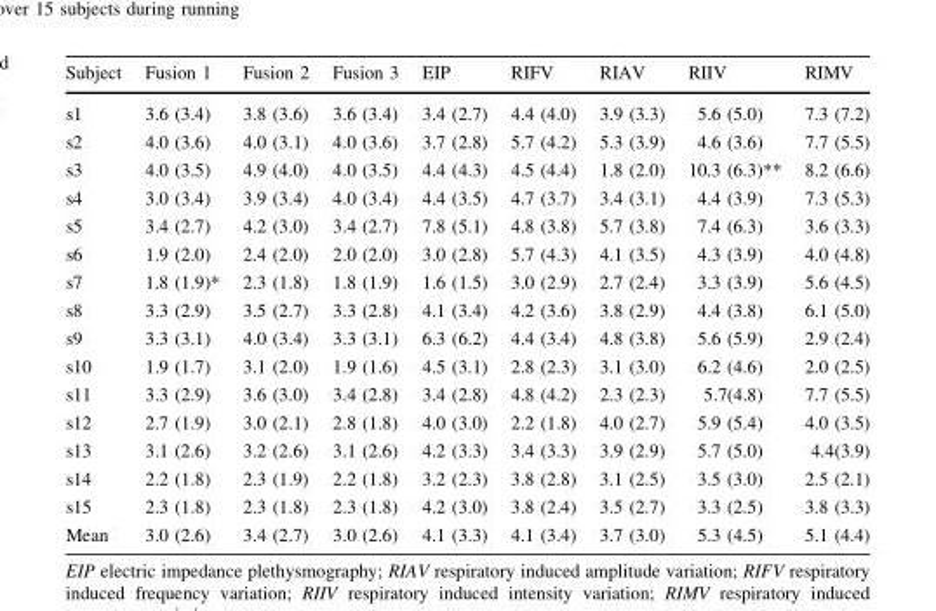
<table><thead><tr><td>Subject</td><td>Fusion 1</td><td>Fusion 2</td><td>Fusion 3</td><td>EIP</td><td>RIFV</td><td>RIAV</td><td>RIIV</td><td>RIMV</td></tr></thead><tbody><tr><td>s1</td><td>3.6 (3.4)</td><td>3.8 (3.6)</td><td>3.6 (3.4)</td><td>3.4 (2.7)</td><td>4.4 (4.0)</td><td>3.9 (3.3)</td><td>5.6 (5.0)</td><td>7.3 (7.2)</td></tr><tr><td>s2</td><td>4.0 (3.6)</td><td>4.0 (3.1)</td><td>4.0 (3.6)</td><td>3.7 (2.8)</td><td>5.7 (4.2)</td><td>5.3 (3.9)</td><td>4.6 (3.6)</td><td>7.7 (5.5)</td></tr><tr><td>s3</td><td>4.0 (3.5)</td><td>4.9 (4.0)</td><td>4.0 (3.5)</td><td>4.4 (4.3)</td><td>4.5 (4.4)</td><td>1.8 (2.0)</td><td>10.3 (6.3)**</td><td>8.2 (6.6)</td></tr><tr><td>s4</td><td>3.0 (3.4)</td><td>3.9 (3.4)</td><td>4.0 (3.4)</td><td>4.4 (3.5)</td><td>4.7 (3.7)</td><td>3.4 (3.1)</td><td>4.4 (3.9)</td><td>7.3 (5.3)</td></tr><tr><td>s5</td><td>3.4 (2.7)</td><td>4.2 (3.0)</td><td>3.4 (2.7)</td><td>7.8 (5.1)</td><td>4.8 (3.8)</td><td>5.7 (3.8)</td><td>7.4 (6.3)</td><td>3.6 (3.3)</td></tr><tr><td>s6</td><td>1.9 (2.0)</td><td>2.4 (2.0)</td><td>2.0 (2.0)</td><td>3.0 (2.8)</td><td>5.7 (4.3)</td><td>4.1 (3.5)</td><td>4.3 (3.9)</td><td>4.0 (4.8)</td></tr><tr><td>s7</td><td>1.8 (1.9)*</td><td>2.3 (1.8)</td><td>1.8 (1.9)</td><td>1.6 (1.5)</td><td>3.0 (2.9)</td><td>2.7 (2.4)</td><td>3.3 (3.9)</td><td>5.6 (4.5)</td></tr><tr><td>s8</td><td>3.3 (2.9)</td><td>3.5 (2.7)</td><td>3.3 (2.8)</td><td>4.1 (3.4)</td><td>4.2 (3.6)</td><td>3.8 (2.9)</td><td>4.4 (3.8)</td><td>6.1 (5.0)</td></tr><tr><td>s9</td><td>3.3 (3.1)</td><td>4.0 (3.4)</td><td>3.3 (3.1)</td><td>6.3 (6.2)</td><td>4.4 (3.4)</td><td>4.8 (3.8)</td><td>5.6 (5.9)</td><td>2.9 (2.4)</td></tr><tr><td>s10</td><td>1.9 (1.7)</td><td>3.1 (2.0)</td><td>1.9 (1.6)</td><td>4.5 (3.1)</td><td>2.8 (2.3)</td><td>3.1 (3.0)</td><td>6.2 (4.6)</td><td>2.0 (2.5)</td></tr><tr><td>s11</td><td>3.3 (2.9)</td><td>3.6 (3.0)</td><td>3.4 (2.8)</td><td>3.4 (2.8)</td><td>4.8 (4.2)</td><td>2.3 (2.3)</td><td>5.7(4.8)</td><td>7.7 (5.5)</td></tr><tr><td>s12</td><td>2.7 (1.9)</td><td>3.0 (2.1)</td><td>2.8 (1.8)</td><td>4.0 (3.0)</td><td>2.2 (1.8)</td><td>4.0 (2.7)</td><td>5.9 (5.4)</td><td>4.0 (3.5)</td></tr><tr><td>s13</td><td>3.1 (2.6)</td><td>3.2 (2.6)</td><td>3.1 (2.6)</td><td>4.2 (3.3)</td><td>3.4 (3.3)</td><td>3.9 (2.9)</td><td>5.7 (5.0)</td><td>4.4(3.9)</td></tr><tr><td>s14</td><td>2.2 (1.8)</td><td>2.3 (1.9)</td><td>2.2 (1.8)</td><td>3.2 (2.3)</td><td>3.8 (2.8)</td><td>3.1 (2.5)</td><td>3.5 (3.0)</td><td>2.5 (2.1)</td></tr><tr><td>s15</td><td>2.3 (1.8)</td><td>2.3 (1.8)</td><td>2.3 (1.8)</td><td>4.2 (3.0)</td><td>3.8 (2.4)</td><td>3.5 (2.7)</td><td>3.3 (2.5)</td><td>3.8 (3.3)</td></tr><tr><td>Mean</td><td>3.0 (2.6)</td><td>3.4 (2.7)</td><td>3.0 (2.6)</td><td>4.1 (3.3)</td><td>4.1 (3.4)</td><td>3.7 (3.0)</td><td>5.3 (4.5)</td><td>5.1 (4.4)</td></tr></tbody></table>